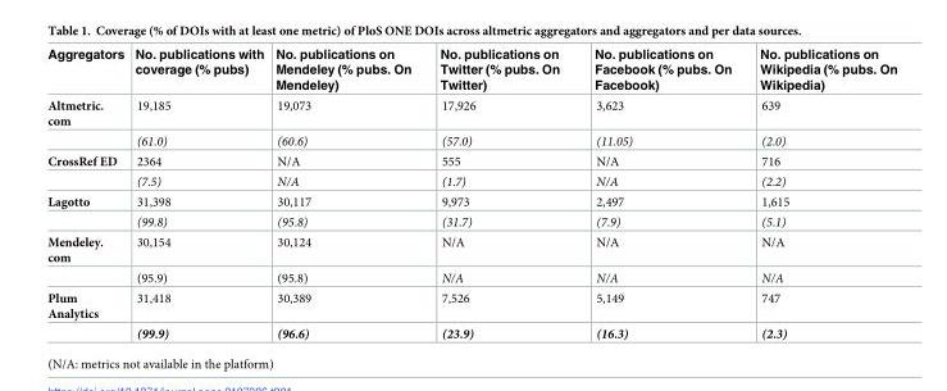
<table><thead><tr><td>Aggregators</td><td>No. publications with coverage (% pubs)</td><td>No. publications on Mendeley (% pubs. On Mendeley)</td><td>No. publications on Twitter (% pubs. On Twitter)</td><td>No. publications on Facebook (% pubs. On Facebook)</td><td>No. publications on Wikipedia (% pubs. On Wikipedia)</td></tr></thead><tbody><tr><td rowspan="2">Altmetric. com</td><td>19,185</td><td>19,073</td><td>17,926</td><td>3,623</td><td>639</td></tr><tr><td>(61.0)</td><td>(60.6)</td><td>(57.0)</td><td>(11.05)</td><td>(2.0)</td></tr><tr><td rowspan="2">CrossRef ED</td><td>2364</td><td>N/A</td><td>555</td><td>N/A</td><td>716</td></tr><tr><td>(7.5)</td><td>N/A</td><td>(1.7)</td><td>N/A</td><td>(2.2)</td></tr><tr><td rowspan="2">Lagotto</td><td>31,398</td><td>30,117</td><td>9,973</td><td>2,497</td><td>1,615</td></tr><tr><td>(99.8)</td><td>(95.8)</td><td>(31.7)</td><td>(7.9)</td><td>(5.1)</td></tr><tr><td rowspan="2">Mendeley. com</td><td>30,154</td><td>30,124</td><td>N/A</td><td>N/A</td><td>N/A</td></tr><tr><td>(95.9)</td><td>(95.8)</td><td>N/A</td><td>N/A</td><td>N/A</td></tr><tr><td rowspan="2">Plum Analytics</td><td>31,418</td><td>30,389</td><td>7,526</td><td>5,149</td><td>747</td></tr><tr><td>(99.9)</td><td>(96.6)</td><td>(23.9)</td><td>(16.3)</td><td>(2.3)</td></tr></tbody></table>